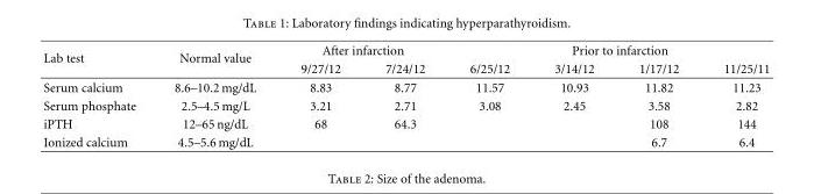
<table><thead><tr><td rowspan="2">Lab test</td><td rowspan="2">Normal value</td><td colspan="2">After infarction</td><td colspan="4">Prior to infarction</td></tr><tr><td>9/27/12</td><td>7/24/12</td><td>6/25/12</td><td>3/14/12</td><td>1/17/12</td><td>11/25/11</td></tr></thead><tbody><tr><td>Serum calcium</td><td>8.6–10.2 mg/dL</td><td>8.83</td><td>8.77</td><td>11.57</td><td>10.93</td><td>11.82</td><td>11.23</td></tr><tr><td>Serum phosphate</td><td>2.5–4.5 mg/L</td><td>3.21</td><td>2.71</td><td>3.08</td><td>2.45</td><td>3.58</td><td>2.82</td></tr><tr><td>iPTH</td><td>12–65 ng/dL</td><td>68</td><td>64.3</td><td></td><td></td><td>108</td><td>144</td></tr><tr><td>Ionized calcium</td><td>4.5–5.6 mg/dL</td><td></td><td></td><td></td><td></td><td>6.7</td><td>6.4</td></tr></tbody></table>